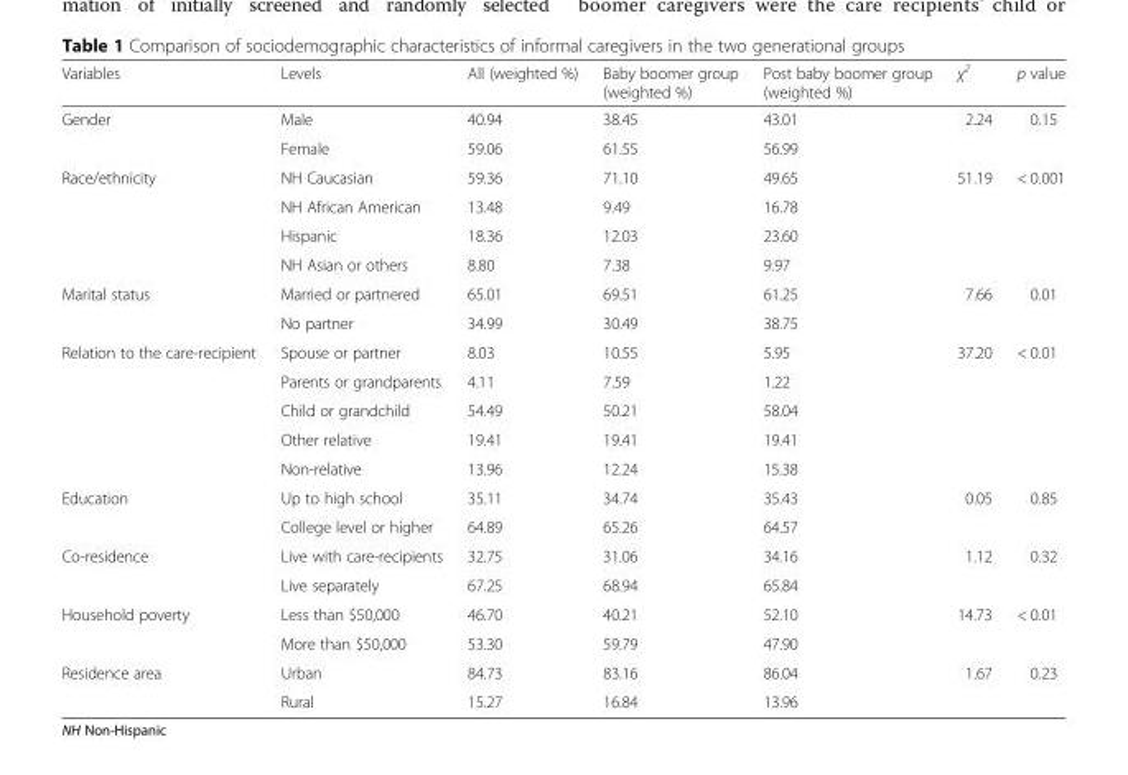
<table><thead><tr><td>Variables</td><td>Levels</td><td>All (weighted %)</td><td>Baby boomer group (weighted %)</td><td>Post baby boomer group (weighted %)</td><td>χ<sup>2</sup></td><td>p value</td></tr></thead><tbody><tr><td rowspan="2">Gender</td><td>Male</td><td>40.94</td><td>38.45</td><td>43.01</td><td>2.24</td><td>0.15</td></tr><tr><td>Female</td><td>59.06</td><td>61.55</td><td>56.99</td><td></td><td></td></tr><tr><td rowspan="4">Race/ethnicity</td><td>NH Caucasian</td><td>59.36</td><td>71.10</td><td>49.65</td><td>51.19</td><td>&lt; 0.001</td></tr><tr><td>NH African American</td><td>13.48</td><td>9.49</td><td>16.78</td><td></td><td></td></tr><tr><td>Hispanic</td><td>18.36</td><td>12.03</td><td>23.60</td><td></td><td></td></tr><tr><td>NH Asian or others</td><td>8.80</td><td>7.38</td><td>9.97</td><td></td><td></td></tr><tr><td rowspan="2">Marital status</td><td>Married or partnered</td><td>65.01</td><td>69.51</td><td>61.25</td><td>7.66</td><td>0.01</td></tr><tr><td>No partner</td><td>34.99</td><td>30.49</td><td>38.75</td><td></td><td></td></tr><tr><td rowspan="5">Relation to the care-recipient</td><td>Spouse or partner</td><td>8.03</td><td>10.55</td><td>5.95</td><td>37.20</td><td>&lt; 0.01</td></tr><tr><td>Parents or grandparents</td><td>4.11</td><td>7.59</td><td>1.22</td><td></td><td></td></tr><tr><td>Child or grandchild</td><td>54.49</td><td>50.21</td><td>58.04</td><td></td><td></td></tr><tr><td>Other relative</td><td>19.41</td><td>19.41</td><td>19.41</td><td></td><td></td></tr><tr><td>Non-relative</td><td>13.96</td><td>12.24</td><td>15.38</td><td></td><td></td></tr><tr><td rowspan="2">Education</td><td>Up to high school</td><td>35.11</td><td>34.74</td><td>35.43</td><td>0.05</td><td>0.85</td></tr><tr><td>College level or higher</td><td>64.89</td><td>65.26</td><td>64.57</td><td></td><td></td></tr><tr><td rowspan="2">Co-residence</td><td>Live with care-recipients</td><td>32.75</td><td>31.06</td><td>34.16</td><td>1.12</td><td>0.32</td></tr><tr><td>Live separately</td><td>67.25</td><td>68.94</td><td>65.84</td><td></td><td></td></tr><tr><td rowspan="2">Household poverty</td><td>Less than $50,000</td><td>46.70</td><td>40.21</td><td>52.10</td><td>14.73</td><td>&lt; 0.01</td></tr><tr><td>More than $50,000</td><td>53.30</td><td>59.79</td><td>47.90</td><td></td><td></td></tr><tr><td rowspan="2">Residence area</td><td>Urban</td><td>84.73</td><td>83.16</td><td>86.04</td><td>1.67</td><td>0.23</td></tr><tr><td>Rural</td><td>15.27</td><td>16.84</td><td>13.96</td><td></td><td></td></tr></tbody></table>